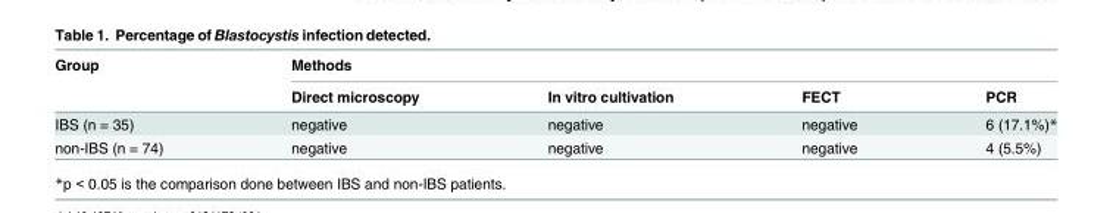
<table><thead><tr><td rowspan="2">Group</td><td colspan="4">Methods</td></tr><tr><td>Direct microscopy</td><td>In vitro cultivation</td><td>FECT</td><td>PCR</td></tr></thead><tbody><tr><td>IBS (n = 35)</td><td>negative</td><td>negative</td><td>negative</td><td>6 (17.1%)*</td></tr><tr><td>non-IBS (n = 74)</td><td>negative</td><td>negative</td><td>negative</td><td>4 (5.5%)</td></tr></tbody></table>